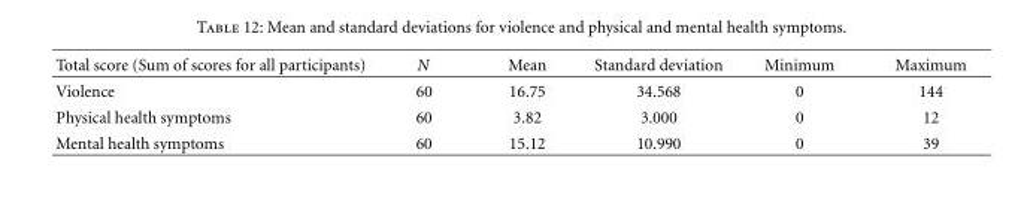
<table><thead><tr><td>Total score (Sum of scores for all participants)</td><td>N</td><td>Mean</td><td>Standard deviation</td><td>Minimum</td><td>Maximum</td></tr></thead><tbody><tr><td>Violence</td><td>60</td><td>16.75</td><td>34.568</td><td>0</td><td>144</td></tr><tr><td>Physical health symptoms</td><td>60</td><td>3.82</td><td>3.000</td><td>0</td><td>12</td></tr><tr><td>Mental health symptoms</td><td>60</td><td>15.12</td><td>10.990</td><td>0</td><td>39</td></tr></tbody></table>